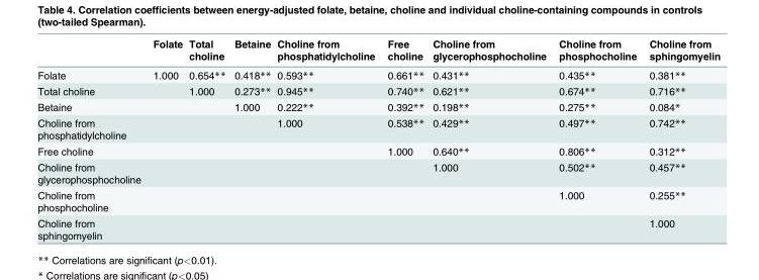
<table><thead><tr><td></td><td>Folate</td><td>Total choline</td><td>Betaine</td><td>Choline from phosphatidylcholine</td><td>Free choline</td><td>Choline from glycerophosphocholine</td><td>Choline from phosphocholine</td><td>Choline from sphingomyelin</td></tr></thead><tbody><tr><td>Folate</td><td>1.000</td><td>0.654**</td><td>0.418**</td><td>0.593**</td><td>0.661**</td><td>0.431**</td><td>0.435**</td><td>0.381**</td></tr><tr><td>Total choline</td><td></td><td>1.000</td><td>0.273**</td><td>0.945**</td><td>0.740**</td><td>0.621**</td><td>0.674**</td><td>0.716**</td></tr><tr><td>Betaine</td><td></td><td></td><td>1.000</td><td>0.222**</td><td>0.392**</td><td>0.198**</td><td>0.275**</td><td>0.084*</td></tr><tr><td>Choline from phosphatidylcholine</td><td></td><td></td><td></td><td>1.000</td><td>0.538**</td><td>0.429**</td><td>0.497**</td><td>0.742**</td></tr><tr><td>Free choline</td><td></td><td></td><td></td><td></td><td>1.000</td><td>0.640**</td><td>0.806**</td><td>0.312**</td></tr><tr><td>Choline from glycerophosphocholine</td><td></td><td></td><td></td><td></td><td></td><td>1.000</td><td>0.502**</td><td>0.457**</td></tr><tr><td>Choline from phosphocholine</td><td></td><td></td><td></td><td></td><td></td><td></td><td>1.000</td><td>0.255**</td></tr><tr><td>Choline from sphingomyelin</td><td></td><td></td><td></td><td></td><td></td><td></td><td></td><td>1.000</td></tr></tbody></table>